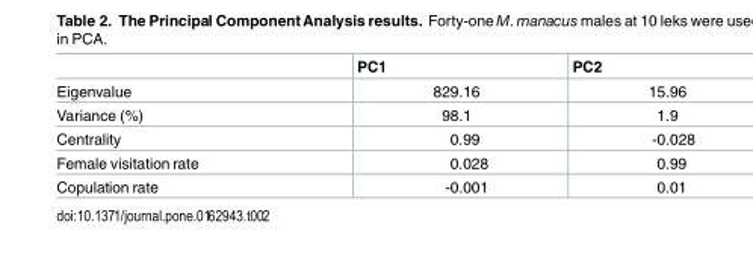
<table><thead><tr><td></td><td>PC1</td><td>PC2</td></tr></thead><tbody><tr><td>Eigenvalue</td><td>829.16</td><td>15.96</td></tr><tr><td>Variance (%)</td><td>98.1</td><td>1.9</td></tr><tr><td>Centrality</td><td>0.99</td><td>-0.028</td></tr><tr><td>Female visitation rate</td><td>0.028</td><td>0.99</td></tr><tr><td>Copulation rate</td><td>-0.001</td><td>0.01</td></tr></tbody></table>